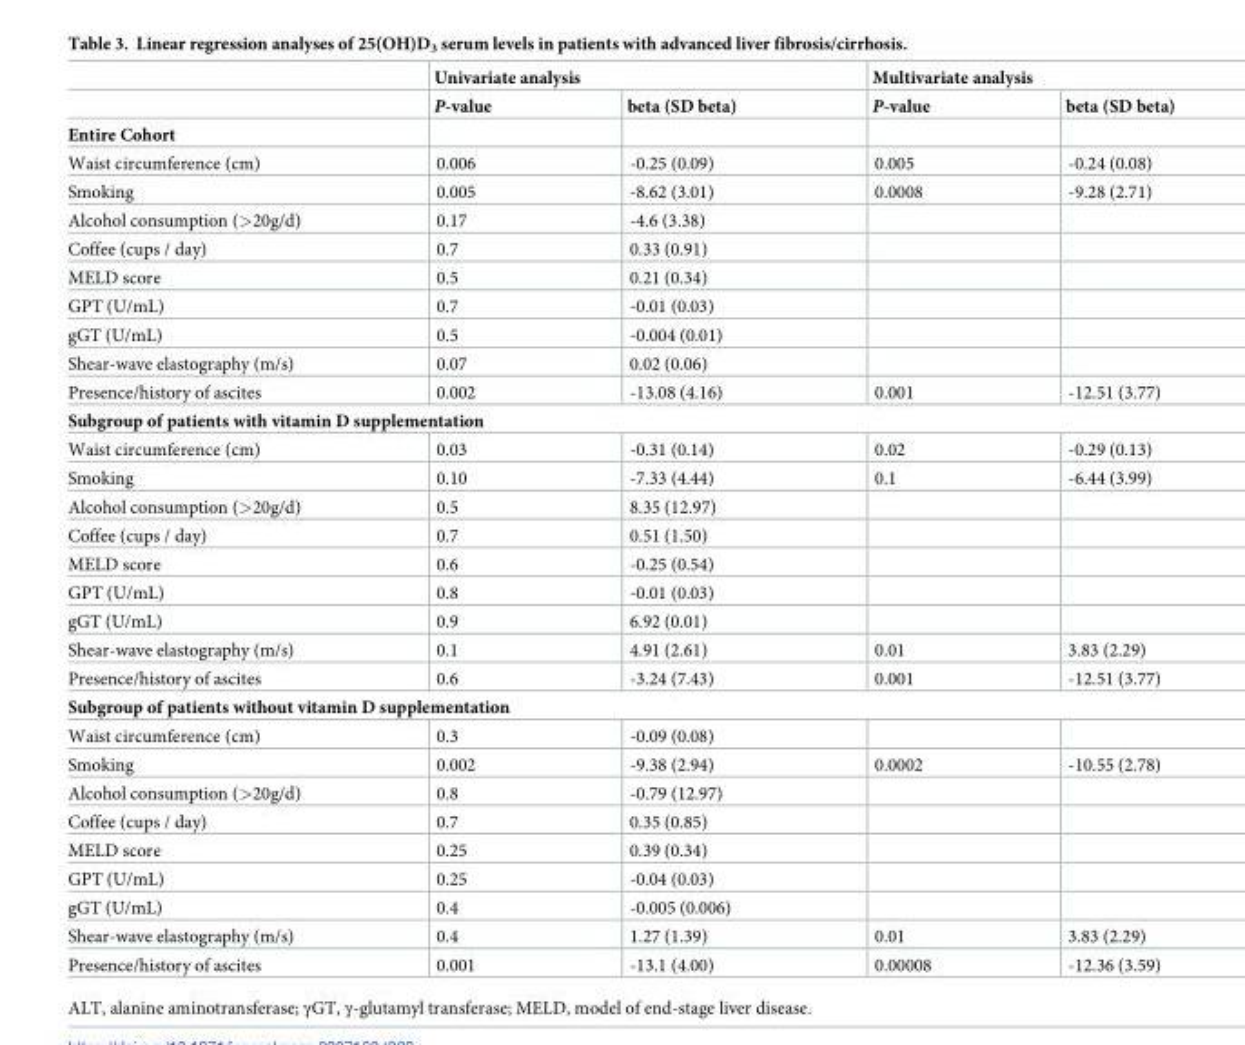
<table><thead><tr><td rowspan="2"></td><td colspan="2">Univariate analysis</td><td colspan="2">Multivariate analysis</td></tr><tr><td>P-value</td><td>beta (SD beta)</td><td>P-value</td><td>beta (SD beta)</td></tr></thead><tbody><tr><td colspan="5">Entire Cohort</td></tr><tr><td>Waist circumference (cm)</td><td>0.006</td><td>-0.25 (0.09)</td><td>0.005</td><td>-0.24 (0.08)</td></tr><tr><td>Smoking</td><td>0.005</td><td>-8.62 (3.01)</td><td>0.0008</td><td>-9.28 (2.71)</td></tr><tr><td>Alcohol consumption (&gt;20g/d)</td><td>0.17</td><td>-4.6 (3.38)</td><td></td><td></td></tr><tr><td>Coffee (cups / day)</td><td>0.7</td><td>0.33 (0.91)</td><td></td><td></td></tr><tr><td>MELD score</td><td>0.5</td><td>0.21 (0.34)</td><td></td><td></td></tr><tr><td>GPT (U/mL)</td><td>0.7</td><td>-0.01 (0.03)</td><td></td><td></td></tr><tr><td>gGT (U/mL)</td><td>0.5</td><td>-0.004 (0.01)</td><td></td><td></td></tr><tr><td>Shear-wave elastography (m/s)</td><td>0.07</td><td>0.02 (0.06)</td><td></td><td></td></tr><tr><td>Presence/history of ascites</td><td>0.002</td><td>-13.08 (4.16)</td><td>0.001</td><td>-12.51 (3.77)</td></tr><tr><td colspan="5">Subgroup of patients with vitamin D supplementation</td></tr><tr><td>Waist circumference (cm)</td><td>0.03</td><td>-0.31 (0.14)</td><td>0.02</td><td>-0.29 (0.13)</td></tr><tr><td>Smoking</td><td>0.10</td><td>-7.33 (4.44)</td><td>0.1</td><td>-6.44 (3.99)</td></tr><tr><td>Alcohol consumption (&gt;20g/d)</td><td>0.5</td><td>8.35 (12.97)</td><td></td><td></td></tr><tr><td>Coffee (cups / day)</td><td>0.7</td><td>0.51 (1.50)</td><td></td><td></td></tr><tr><td>MELD score</td><td>0.6</td><td>-0.25 (0.54)</td><td></td><td></td></tr><tr><td>GPT (U/mL)</td><td>0.8</td><td>-0.01 (0.03)</td><td></td><td></td></tr><tr><td>gGT (U/mL)</td><td>0.9</td><td>6.92 (0.01)</td><td></td><td></td></tr><tr><td>Shear-wave elastography (m/s)</td><td>0.1</td><td>4.91 (2.61)</td><td>0.01</td><td>3.83 (2.29)</td></tr><tr><td>Presence/history of ascites</td><td>0.6</td><td>-3.24 (7.43)</td><td>0.001</td><td>-12.51 (3.77)</td></tr><tr><td colspan="5">Subgroup of patients without vitamin D supplementation</td></tr><tr><td>Waist circumference (cm)</td><td>0.3</td><td>-0.09 (0.08)</td><td></td><td></td></tr><tr><td>Smoking</td><td>0.002</td><td>-9.38 (2.94)</td><td>0.0002</td><td>-10.55 (2.78)</td></tr><tr><td>Alcohol consumption (&gt;20g/d)</td><td>0.8</td><td>-0.79 (12.97)</td><td></td><td></td></tr><tr><td>Coffee (cups / day)</td><td>0.7</td><td>0.35 (0.85)</td><td></td><td></td></tr><tr><td>MELD score</td><td>0.25</td><td>0.39 (0.34)</td><td></td><td></td></tr><tr><td>GPT (U/mL)</td><td>0.25</td><td>-0.04 (0.03)</td><td></td><td></td></tr><tr><td>gGT (U/mL)</td><td>0.4</td><td>-0.005 (0.006)</td><td></td><td></td></tr><tr><td>Shear-wave elastography (m/s)</td><td>0.4</td><td>1.27 (1.39)</td><td>0.01</td><td>3.83 (2.29)</td></tr><tr><td>Presence/history of ascites</td><td>0.001</td><td>-13.1 (4.00)</td><td>0.00008</td><td>-12.36 (3.59)</td></tr></tbody></table>